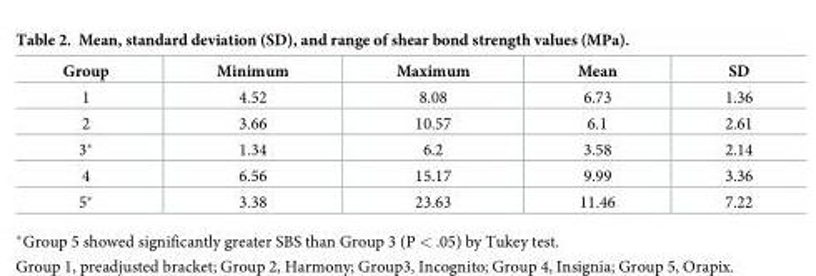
<table><thead><tr><td>Group</td><td>Minimum</td><td>Maximum</td><td>Mean</td><td>SD</td></tr></thead><tbody><tr><td>1</td><td>4.52</td><td>8.08</td><td>6.73</td><td>1.36</td></tr><tr><td>2</td><td>3.66</td><td>10.57</td><td>6.1</td><td>2.61</td></tr><tr><td>3*</td><td>1.34</td><td>6.2</td><td>3.58</td><td>2.14</td></tr><tr><td>4</td><td>6.56</td><td>15.17</td><td>9.99</td><td>3.36</td></tr><tr><td>5*</td><td>3.38</td><td>23.63</td><td>11.46</td><td>7.22</td></tr></tbody></table>